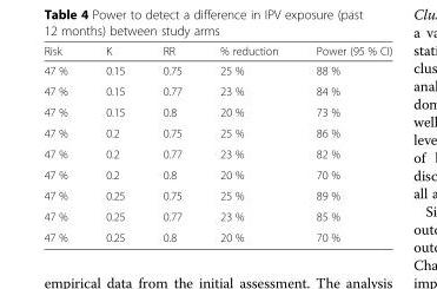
<table><thead><tr><td>Risk</td><td>K</td><td>RR</td><td>% reduction</td><td>Power (95 % CI)</td></tr></thead><tbody><tr><td>47 %</td><td>0.15</td><td>0.75</td><td>25 %</td><td>88 %</td></tr><tr><td>47 %</td><td>0.15</td><td>0.77</td><td>23 %</td><td>84 %</td></tr><tr><td>47 %</td><td>0.15</td><td>0.8</td><td>20 %</td><td>73 %</td></tr><tr><td>47 %</td><td>0.2</td><td>0.75</td><td>25 %</td><td>86 %</td></tr><tr><td>47 %</td><td>0.2</td><td>0.77</td><td>23 %</td><td>82 %</td></tr><tr><td>47 %</td><td>0.2</td><td>0.8</td><td>20 %</td><td>70 %</td></tr><tr><td>47 %</td><td>0.25</td><td>0.75</td><td>25 %</td><td>89 %</td></tr><tr><td>47 %</td><td>0.25</td><td>0.77</td><td>23 %</td><td>85 %</td></tr><tr><td>47 %</td><td>0.25</td><td>0.8</td><td>20 %</td><td>70 %</td></tr></tbody></table>